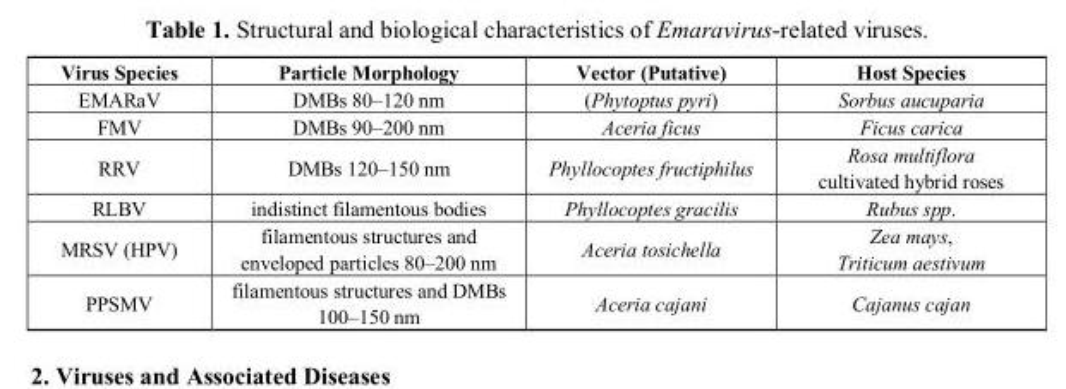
<table><thead><tr><td>Virus Species</td><td>Particle Morphology</td><td>Vector (Putative)</td><td>Host Species</td></tr></thead><tbody><tr><td>EMARaV</td><td>DMBs 80–120 nm</td><td>(Phytoptus pyri)</td><td>Sorbus aucuparia</td></tr><tr><td>FMV</td><td>DMBs 90–200 nm</td><td>Aceria ficus</td><td>Ficus carica</td></tr><tr><td>RRV</td><td>DMBs 120–150 nm</td><td>Phyllocoptes fructiphilus</td><td>Rosa multiflora cultivated hybrid roses</td></tr><tr><td>RLBV</td><td>indistinct filamentous bodies</td><td>Phyllocoptes gracilis</td><td>Rubus spp.</td></tr><tr><td>MRSV (HPV)</td><td>filamentous structures and enveloped particles 80–200 nm</td><td>Aceria tosichella</td><td>Zea mays, Triticum aestivum</td></tr><tr><td>PPSMV</td><td>filamentous structures and DMBs 100–150 nm</td><td>Aceria cajani</td><td>Cajanus cajan</td></tr></tbody></table>